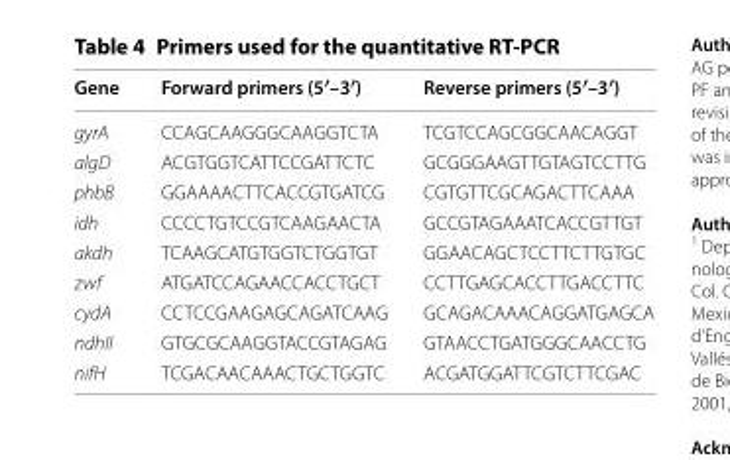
<table><thead><tr><td>Gene</td><td>Forward primers (5′–3′)</td><td>Reverse primers (5′–3′)</td></tr></thead><tbody><tr><td>gyrA</td><td>CCAGCAAGGGCAAGGTCTA</td><td>TCGTCCAGCGGCAACAGGT</td></tr><tr><td>algD</td><td>ACGTGGTCATTCCGATTCTC</td><td>GCGGGAAGTTGTAGTCCTTG</td></tr><tr><td>phbB</td><td>GGAAAACTTCACCGTGATCG</td><td>CGTGTTCGCAGACTTCAAA</td></tr><tr><td>idh</td><td>CCCCTGTCCGTCAAGAACTA</td><td>GCCGTAGAAATCACCGTTGT</td></tr><tr><td>akdh</td><td>TCAAGCATGTGGTCTGGTGT</td><td>GGAACAGCTCCTTCTTGTGC</td></tr><tr><td>zwf</td><td>ATGATCCAGAACCACCTGCT</td><td>CCTTGAGCACCTTGACCTTC</td></tr><tr><td>cydA</td><td>CCTCCGAAGAGCAGATCAAG</td><td>GCAGACAAACAGGATGAGCA</td></tr><tr><td>ndhII</td><td>GTGCGCAAGGTACCGTAGAG</td><td>GTAACCTGATGGGCAACCTG</td></tr><tr><td>nifH</td><td>TCGACAACAAACTGCTGGTC</td><td>ACGATGGATTCGTCTTCGAC</td></tr></tbody></table>